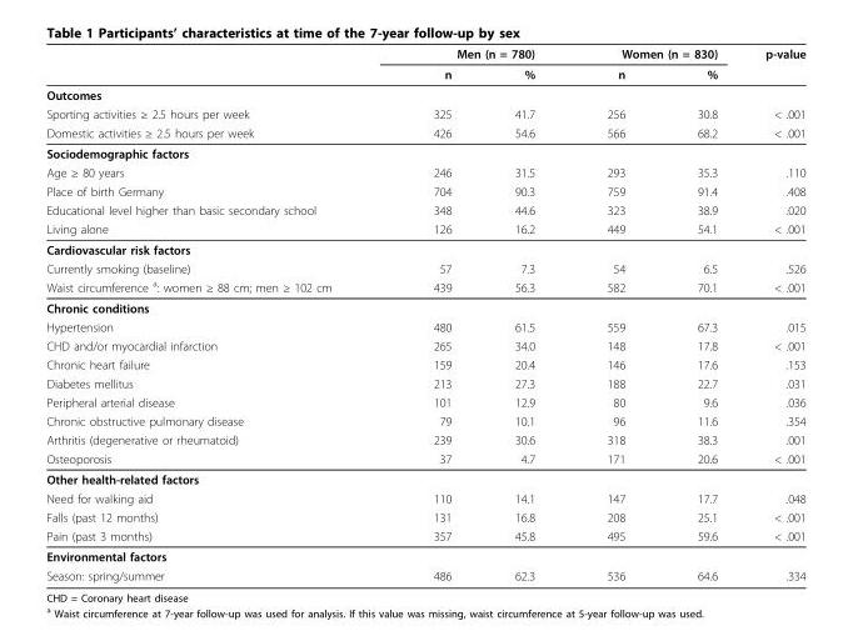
<table><thead><tr><td rowspan="2"></td><td colspan="2">Men (n = 780)</td><td colspan="2">Women (n = 830)</td><td rowspan="2">p-value</td></tr><tr><td>n</td><td>%</td><td>n</td><td>%</td></tr></thead><tbody><tr><td colspan="6">Outcomes</td></tr><tr><td>Sporting activities ≥ 2.5 hours per week</td><td>325</td><td>41.7</td><td>256</td><td>30.8</td><td>&lt; .001</td></tr><tr><td>Domestic activities ≥ 2.5 hours per week</td><td>426</td><td>54.6</td><td>566</td><td>68.2</td><td>&lt; .001</td></tr><tr><td colspan="6">Sociodemographic factors</td></tr><tr><td>Age ≥ 80 years</td><td>246</td><td>31.5</td><td>293</td><td>35.3</td><td>.110</td></tr><tr><td>Place of birth Germany</td><td>704</td><td>90.3</td><td>759</td><td>91.4</td><td>.408</td></tr><tr><td>Educational level higher than basic secondary school</td><td>348</td><td>44.6</td><td>323</td><td>38.9</td><td>.020</td></tr><tr><td>Living alone</td><td>126</td><td>16.2</td><td>449</td><td>54.1</td><td>&lt; .001</td></tr><tr><td colspan="6">Cardiovascular risk factors</td></tr><tr><td>Currently smoking (baseline)</td><td>57</td><td>7.3</td><td>54</td><td>6.5</td><td>.526</td></tr><tr><td>Waist circumference <sup>a</sup>: women ≥ 88 cm; men ≥ 102 cm</td><td>439</td><td>56.3</td><td>582</td><td>70.1</td><td>&lt; .001</td></tr><tr><td colspan="6">Chronic conditions</td></tr><tr><td>Hypertension</td><td>480</td><td>61.5</td><td>559</td><td>67.3</td><td>.015</td></tr><tr><td>CHD and/or myocardial infarction</td><td>265</td><td>34.0</td><td>148</td><td>17.8</td><td>&lt; .001</td></tr><tr><td>Chronic heart failure</td><td>159</td><td>20.4</td><td>146</td><td>17.6</td><td>.153</td></tr><tr><td>Diabetes mellitus</td><td>213</td><td>27.3</td><td>188</td><td>22.7</td><td>.031</td></tr><tr><td>Peripheral arterial disease</td><td>101</td><td>12.9</td><td>80</td><td>9.6</td><td>.036</td></tr><tr><td>Chronic obstructive pulmonary disease</td><td>79</td><td>10.1</td><td>96</td><td>11.6</td><td>.354</td></tr><tr><td>Arthritis (degenerative or rheumatoid)</td><td>239</td><td>30.6</td><td>318</td><td>38.3</td><td>.001</td></tr><tr><td>Osteoporosis</td><td>37</td><td>4.7</td><td>171</td><td>20.6</td><td>&lt; .001</td></tr><tr><td colspan="6">Other health-related factors</td></tr><tr><td>Need for walking aid</td><td>110</td><td>14.1</td><td>147</td><td>17.7</td><td>.048</td></tr><tr><td>Falls (past 12 months)</td><td>131</td><td>16.8</td><td>208</td><td>25.1</td><td>&lt; .001</td></tr><tr><td>Pain (past 3 months)</td><td>357</td><td>45.8</td><td>495</td><td>59.6</td><td>&lt; .001</td></tr><tr><td colspan="6">Environmental factors</td></tr><tr><td>Season: spring/summer</td><td>486</td><td>62.3</td><td>536</td><td>64.6</td><td>.334</td></tr></tbody></table>